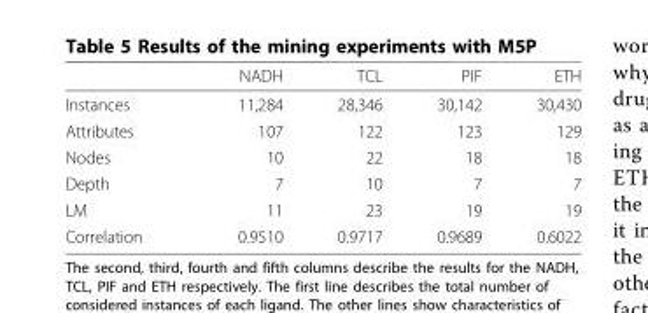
<table><thead><tr><td></td><td>NADH</td><td>TCL</td><td>PIF</td><td>ETH</td></tr></thead><tbody><tr><td>Instances</td><td>11,284</td><td>28,346</td><td>30,142</td><td>30,430</td></tr><tr><td>Attributes</td><td>107</td><td>122</td><td>123</td><td>129</td></tr><tr><td>Nodes</td><td>10</td><td>22</td><td>18</td><td>18</td></tr><tr><td>Depth</td><td>7</td><td>10</td><td>7</td><td>7</td></tr><tr><td>LM</td><td>11</td><td>23</td><td>19</td><td>19</td></tr><tr><td>Correlation</td><td>0.9510</td><td>0.9717</td><td>0.9689</td><td>0.6022</td></tr></tbody></table>